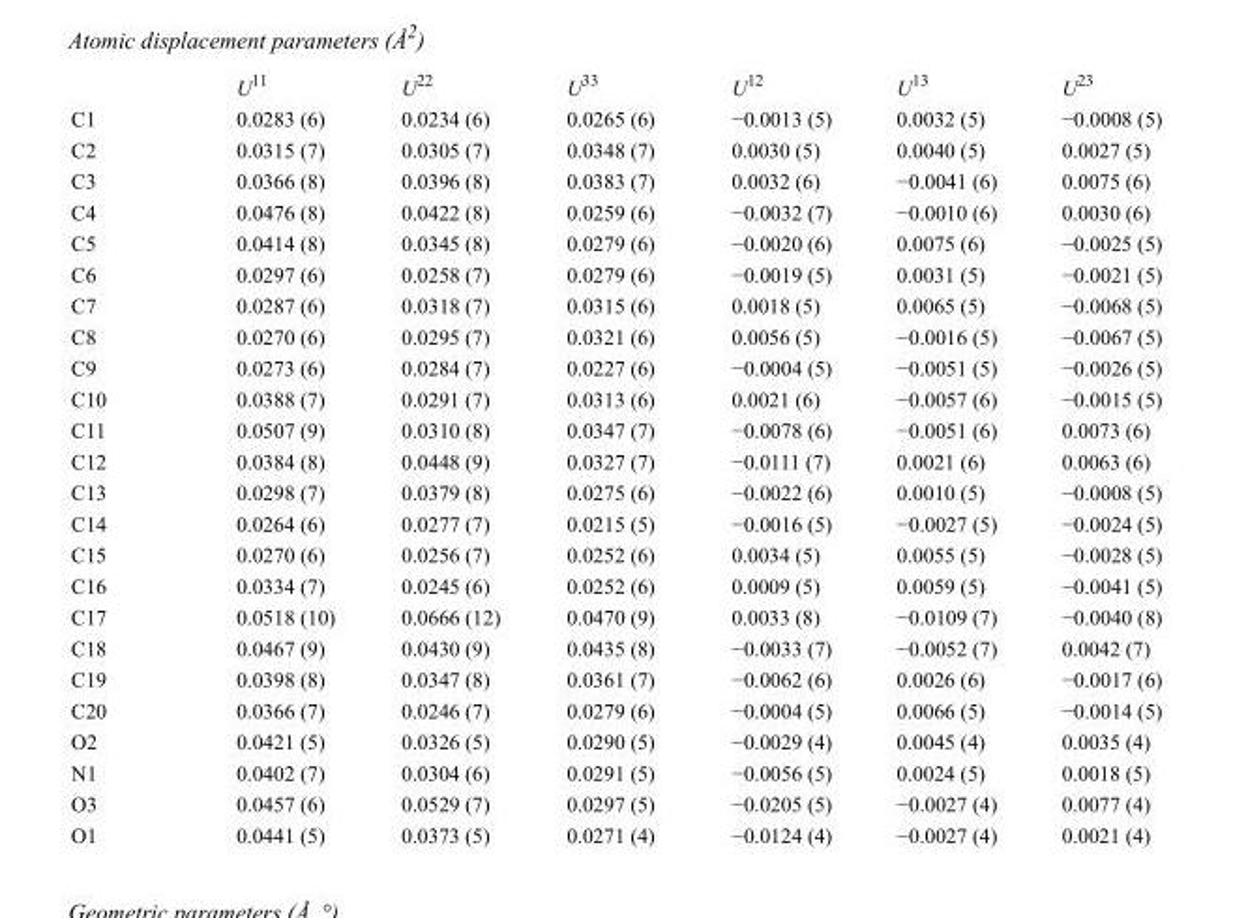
<table><thead><tr><td></td><td>U<sup>11</sup></td><td>U<sup>22</sup></td><td>U<sup>33</sup></td><td>U<sup>12</sup></td><td>U<sup>13</sup></td><td>U<sup>23</sup></td></tr></thead><tbody><tr><td>C1</td><td>0.0283 (6)</td><td>0.0234 (6)</td><td>0.0265 (6)</td><td>−0.0013 (5)</td><td>0.0032 (5)</td><td>−0.0008 (5)</td></tr><tr><td>C2</td><td>0.0315 (7)</td><td>0.0305 (7)</td><td>0.0348 (7)</td><td>0.0030 (5)</td><td>0.0040 (5)</td><td>0.0027 (5)</td></tr><tr><td>C3</td><td>0.0366 (8)</td><td>0.0396 (8)</td><td>0.0383 (7)</td><td>0.0032 (6)</td><td>−0.0041 (6)</td><td>0.0075 (6)</td></tr><tr><td>C4</td><td>0.0476 (8)</td><td>0.0422 (8)</td><td>0.0259 (6)</td><td>−0.0032 (7)</td><td>−0.0010 (6)</td><td>0.0030 (6)</td></tr><tr><td>C5</td><td>0.0414 (8)</td><td>0.0345 (8)</td><td>0.0279 (6)</td><td>−0.0020 (6)</td><td>0.0075 (6)</td><td>−0.0025 (5)</td></tr><tr><td>C6</td><td>0.0297 (6)</td><td>0.0258 (7)</td><td>0.0279 (6)</td><td>−0.0019 (5)</td><td>0.0031 (5)</td><td>−0.0021 (5)</td></tr><tr><td>C7</td><td>0.0287 (6)</td><td>0.0318 (7)</td><td>0.0315 (6)</td><td>0.0018 (5)</td><td>0.0065 (5)</td><td>−0.0068 (5)</td></tr><tr><td>C8</td><td>0.0270 (6)</td><td>0.0295 (7)</td><td>0.0321 (6)</td><td>0.0056 (5)</td><td>−0.0016 (5)</td><td>−0.0067 (5)</td></tr><tr><td>C9</td><td>0.0273 (6)</td><td>0.0284 (7)</td><td>0.0227 (6)</td><td>−0.0004 (5)</td><td>−0.0051 (5)</td><td>−0.0026 (5)</td></tr><tr><td>C10</td><td>0.0388 (7)</td><td>0.0291 (7)</td><td>0.0313 (6)</td><td>0.0021 (6)</td><td>−0.0057 (6)</td><td>−0.0015 (5)</td></tr><tr><td>C11</td><td>0.0507 (9)</td><td>0.0310 (8)</td><td>0.0347 (7)</td><td>−0.0078 (6)</td><td>−0.0051 (6)</td><td>0.0073 (6)</td></tr><tr><td>C12</td><td>0.0384 (8)</td><td>0.0448 (9)</td><td>0.0327 (7)</td><td>−0.0111 (7)</td><td>0.0021 (6)</td><td>0.0063 (6)</td></tr><tr><td>C13</td><td>0.0298 (7)</td><td>0.0379 (8)</td><td>0.0275 (6)</td><td>−0.0022 (6)</td><td>0.0010 (5)</td><td>−0.0008 (5)</td></tr><tr><td>C14</td><td>0.0264 (6)</td><td>0.0277 (7)</td><td>0.0215 (5)</td><td>−0.0016 (5)</td><td>−0.0027 (5)</td><td>−0.0024 (5)</td></tr><tr><td>C15</td><td>0.0270 (6)</td><td>0.0256 (7)</td><td>0.0252 (6)</td><td>0.0034 (5)</td><td>0.0055 (5)</td><td>−0.0028 (5)</td></tr><tr><td>C16</td><td>0.0334 (7)</td><td>0.0245 (6)</td><td>0.0252 (6)</td><td>0.0009 (5)</td><td>0.0059 (5)</td><td>−0.0041 (5)</td></tr><tr><td>C17</td><td>0.0518 (10)</td><td>0.0666 (12)</td><td>0.0470 (9)</td><td>0.0033 (8)</td><td>−0.0109 (7)</td><td>−0.0040 (8)</td></tr><tr><td>C18</td><td>0.0467 (9)</td><td>0.0430 (9)</td><td>0.0435 (8)</td><td>−0.0033 (7)</td><td>−0.0052 (7)</td><td>0.0042 (7)</td></tr><tr><td>C19</td><td>0.0398 (8)</td><td>0.0347 (8)</td><td>0.0361 (7)</td><td>−0.0062 (6)</td><td>0.0026 (6)</td><td>−0.0017 (6)</td></tr><tr><td>C20</td><td>0.0366 (7)</td><td>0.0246 (7)</td><td>0.0279 (6)</td><td>−0.0004 (5)</td><td>0.0066 (5)</td><td>−0.0014 (5)</td></tr><tr><td>O2</td><td>0.0421 (5)</td><td>0.0326 (5)</td><td>0.0290 (5)</td><td>−0.0029 (4)</td><td>0.0045 (4)</td><td>0.0035 (4)</td></tr><tr><td>N1</td><td>0.0402 (7)</td><td>0.0304 (6)</td><td>0.0291 (5)</td><td>−0.0056 (5)</td><td>0.0024 (5)</td><td>0.0018 (5)</td></tr><tr><td>O3</td><td>0.0457 (6)</td><td>0.0529 (7)</td><td>0.0297 (5)</td><td>−0.0205 (5)</td><td>−0.0027 (4)</td><td>0.0077 (4)</td></tr><tr><td>O1</td><td>0.0441 (5)</td><td>0.0373 (5)</td><td>0.0271 (4)</td><td>−0.0124 (4)</td><td>−0.0027 (4)</td><td>0.0021 (4)</td></tr></tbody></table>